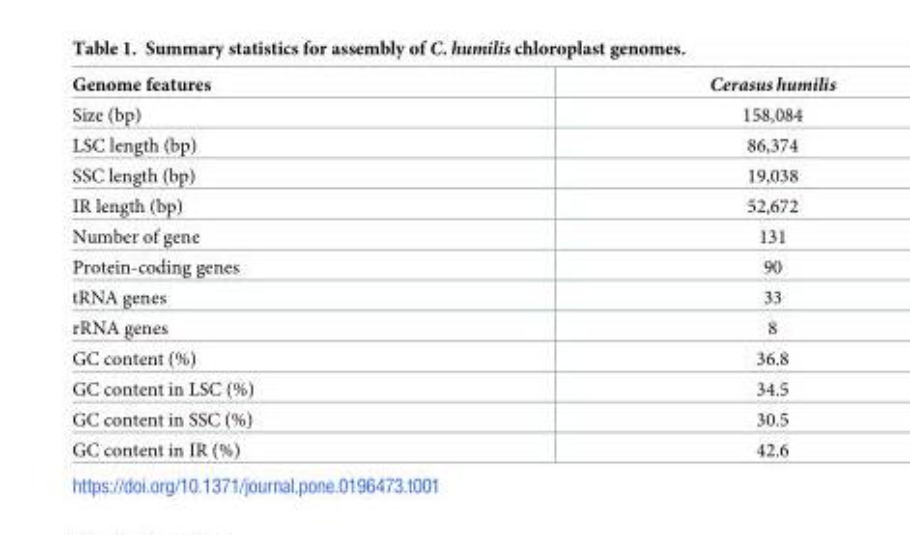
<table><thead><tr><td>Genome features</td><td>Cerasus humilis</td></tr></thead><tbody><tr><td>Size (bp)</td><td>158,084</td></tr><tr><td>LSC length (bp)</td><td>86,374</td></tr><tr><td>SSC length (bp)</td><td>19,038</td></tr><tr><td>IR length (bp)</td><td>52,672</td></tr><tr><td>Number of gene</td><td>131</td></tr><tr><td>Protein-coding genes</td><td>90</td></tr><tr><td>tRNA genes</td><td>33</td></tr><tr><td>rRNA genes</td><td>8</td></tr><tr><td>GC content (%)</td><td>36.8</td></tr><tr><td>GC content in LSC (%)</td><td>34.5</td></tr><tr><td>GC content in SSC (%)</td><td>30.5</td></tr><tr><td>GC content in IR (%)</td><td>42.6</td></tr></tbody></table>